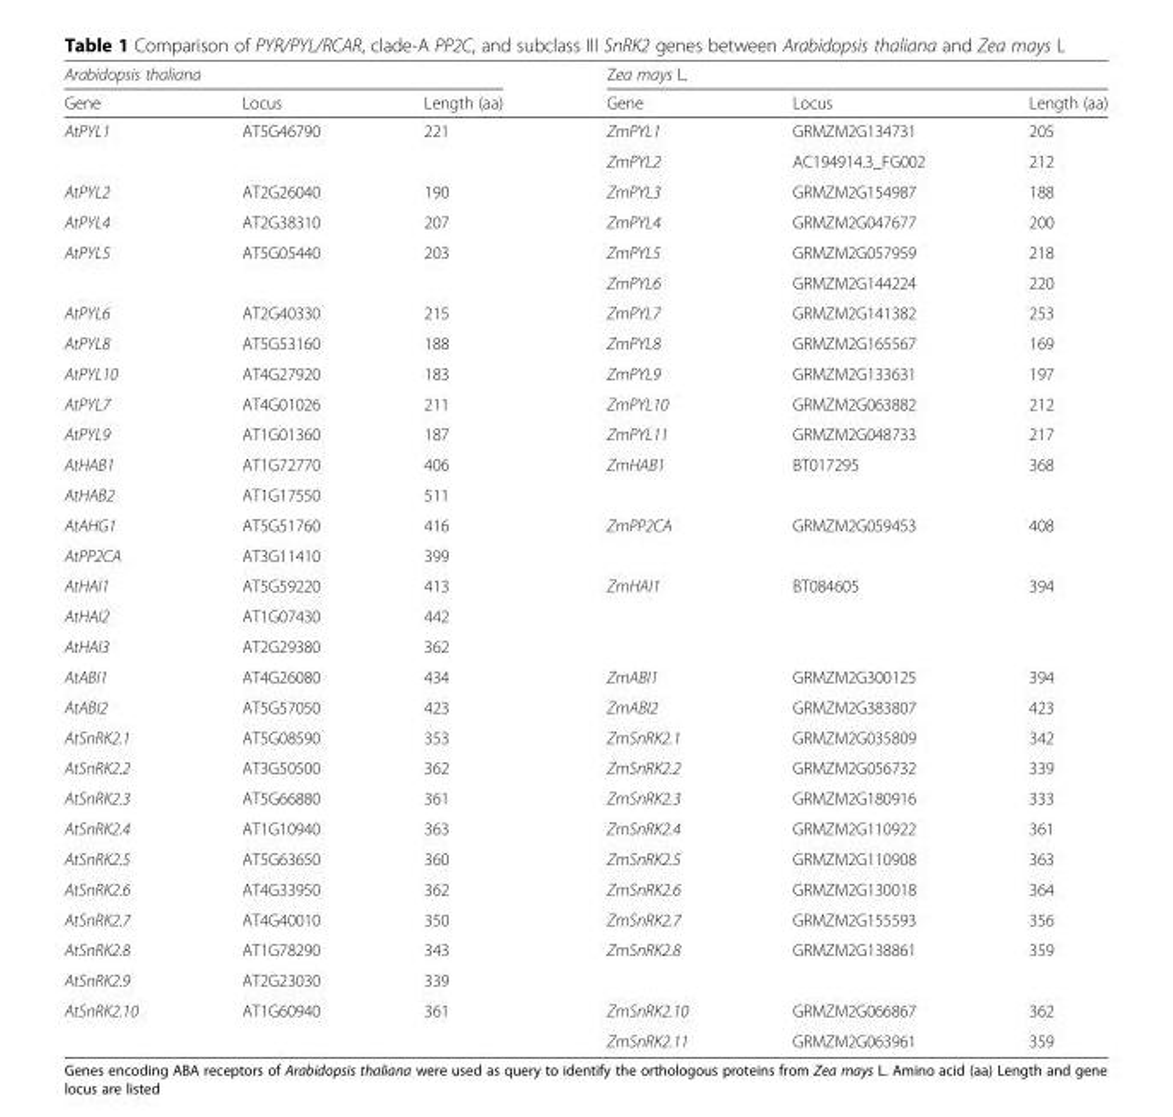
<table><thead><tr><td colspan="3">Arabidopsis thaliana</td><td colspan="3">Zea mays L.</td></tr><tr><td>Gene</td><td>Locus</td><td>Length (aa)</td><td>Gene</td><td>Locus</td><td>Length (aa)</td></tr></thead><tbody><tr><td rowspan="2">AtPYL1</td><td>AT5G46790</td><td>221</td><td>ZmPYL1</td><td>GRMZM2G134731</td><td>205</td></tr><tr><td></td><td></td><td>ZmPYL2</td><td>AC194914.3_FG002</td><td>212</td></tr><tr><td>AtPYL2</td><td>AT2G26040</td><td>190</td><td>ZmPYL3</td><td>GRMZM2G154987</td><td>188</td></tr><tr><td>AtPYL4</td><td>AT2G38310</td><td>207</td><td>ZmPYL4</td><td>GRMZM2G047677</td><td>200</td></tr><tr><td rowspan="2">AtPYL5</td><td>AT5G05440</td><td>203</td><td>ZmPYL5</td><td>GRMZM2G057959</td><td>218</td></tr><tr><td></td><td></td><td>ZmPYL6</td><td>GRMZM2G144224</td><td>220</td></tr><tr><td>AtPYL6</td><td>AT2G40330</td><td>215</td><td>ZmPYL7</td><td>GRMZM2G141382</td><td>253</td></tr><tr><td>AtPYL8</td><td>AT5G53160</td><td>188</td><td>ZmPYL8</td><td>GRMZM2G165567</td><td>169</td></tr><tr><td>AtPYL10</td><td>AT4G27920</td><td>183</td><td>ZmPYL9</td><td>GRMZM2G133631</td><td>197</td></tr><tr><td>AtPYL7</td><td>AT4G01026</td><td>211</td><td>ZmPYL10</td><td>GRMZM2G063882</td><td>212</td></tr><tr><td>AtPYL9</td><td>AT1G01360</td><td>187</td><td>ZmPYL11</td><td>GRMZM2G048733</td><td>217</td></tr><tr><td>AtHAB1</td><td>AT1G72770</td><td>406</td><td>ZmHAB1</td><td>BT017295</td><td>368</td></tr><tr><td>AtHAB2</td><td>AT1G17550</td><td>511</td><td></td><td></td><td></td></tr><tr><td>AtAHG1</td><td>AT5G51760</td><td>416</td><td>ZmPP2CA</td><td>GRMZM2G059453</td><td>408</td></tr><tr><td>AtPP2CA</td><td>AT3G11410</td><td>399</td><td></td><td></td><td></td></tr><tr><td>AtHAI1</td><td>AT5G59220</td><td>413</td><td>ZmHAI1</td><td>BT084605</td><td>394</td></tr><tr><td>AtHAI2</td><td>AT1G07430</td><td>442</td><td></td><td></td><td></td></tr><tr><td>AtHAI3</td><td>AT2G29380</td><td>362</td><td></td><td></td><td></td></tr><tr><td>AtABI1</td><td>AT4G26080</td><td>434</td><td>ZmABI1</td><td>GRMZM2G300125</td><td>394</td></tr><tr><td>AtABI2</td><td>AT5G57050</td><td>423</td><td>ZmABI2</td><td>GRMZM2G383807</td><td>423</td></tr><tr><td>AtSnRK2.1</td><td>AT5G08590</td><td>353</td><td>ZmSnRK2.1</td><td>GRMZM2G035809</td><td>342</td></tr><tr><td>AtSnRK2.2</td><td>AT3G50500</td><td>362</td><td>ZmSnRK2.2</td><td>GRMZM2G056732</td><td>339</td></tr><tr><td>AtSnRK2.3</td><td>AT5G66880</td><td>361</td><td>ZmSnRK2.3</td><td>GRMZM2G180916</td><td>333</td></tr><tr><td>AtSnRK2.4</td><td>AT1G10940</td><td>363</td><td>ZmSnRK2.4</td><td>GRMZM2G110922</td><td>361</td></tr><tr><td>AtSnRK2.5</td><td>AT5G63650</td><td>360</td><td>ZmSnRK2.5</td><td>GRMZM2G110908</td><td>363</td></tr><tr><td>AtSnRK2.6</td><td>AT4G33950</td><td>362</td><td>ZmSnRK2.6</td><td>GRMZM2G130018</td><td>364</td></tr><tr><td>AtSnRK2.7</td><td>AT4G40010</td><td>350</td><td>ZmSnRK2.7</td><td>GRMZM2G155593</td><td>356</td></tr><tr><td>AtSnRK2.8</td><td>AT1G78290</td><td>343</td><td>ZmSnRK2.8</td><td>GRMZM2G138861</td><td>359</td></tr><tr><td>AtSnRK2.9</td><td>AT2G23030</td><td>339</td><td></td><td></td><td></td></tr><tr><td rowspan="2">AtSnRK2.10</td><td>AT1G60940</td><td>361</td><td>ZmSnRK2.10</td><td>GRMZM2G066867</td><td>362</td></tr><tr><td></td><td></td><td>ZmSnRK2.11</td><td>GRMZM2G063961</td><td>359</td></tr></tbody></table>